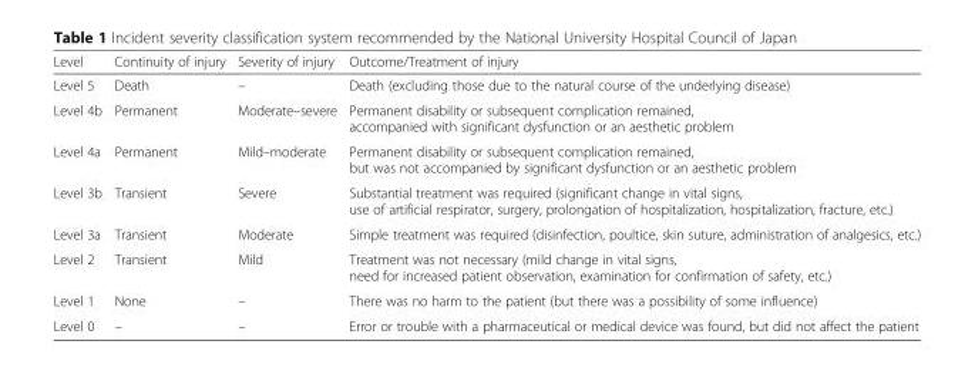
<table><thead><tr><td>Level</td><td>Continuity of injury</td><td>Severity of injury</td><td>Outcome/Treatment of injury</td></tr></thead><tbody><tr><td>Level 5</td><td>Death</td><td>–</td><td>Death (excluding those due to the natural course of the underlying disease)</td></tr><tr><td>Level 4b</td><td>Permanent</td><td>Moderate–severe</td><td>Permanent disability or subsequent complication remained, accompanied with significant dysfunction or an aesthetic problem</td></tr><tr><td>Level 4a</td><td>Permanent</td><td>Mild–moderate</td><td>Permanent disability or subsequent complication remained, but was not accompanied by significant dysfunction or an aesthetic problem</td></tr><tr><td>Level 3b</td><td>Transient</td><td>Severe</td><td>Substantial treatment was required (significant change in vital signs, use of artificial respirator, surgery, prolongation of hospitalization, hospitalization, fracture, etc.)</td></tr><tr><td>Level 3a</td><td>Transient</td><td>Moderate</td><td>Simple treatment was required (disinfection, poultice, skin suture, administration of analgesics, etc.)</td></tr><tr><td>Level 2</td><td>Transient</td><td>Mild</td><td>Treatment was not necessary (mild change in vital signs, need for increased patient observation, examination for confirmation of safety, etc.)</td></tr><tr><td>Level 1</td><td>None</td><td>–</td><td>There was no harm to the patient (but there was a possibility of some influence)</td></tr><tr><td>Level 0</td><td>–</td><td>–</td><td>Error or trouble with a pharmaceutical or medical device was found, but did not affect the patient</td></tr></tbody></table>